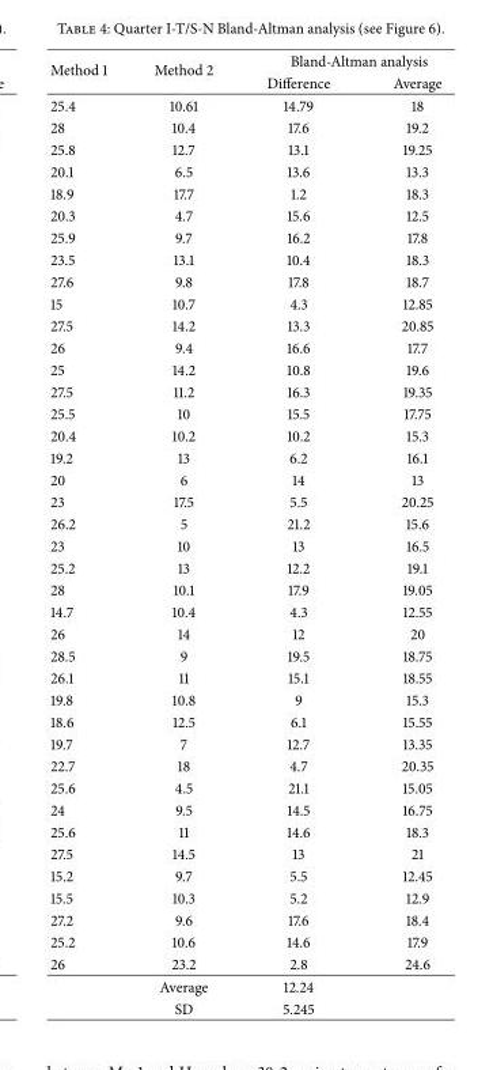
<table><thead><tr><td rowspan="2">Method 1</td><td rowspan="2">Method 2</td><td colspan="2">Bland-Altman analysis</td></tr><tr><td>Difference</td><td>Average</td></tr></thead><tbody><tr><td>25.4</td><td>10.61</td><td>14.79</td><td>18</td></tr><tr><td>28</td><td>10.4</td><td>17.6</td><td>19.2</td></tr><tr><td>25.8</td><td>12.7</td><td>13.1</td><td>19.25</td></tr><tr><td>20.1</td><td>6.5</td><td>13.6</td><td>13.3</td></tr><tr><td>18.9</td><td>17.7</td><td>1.2</td><td>18.3</td></tr><tr><td>20.3</td><td>4.7</td><td>15.6</td><td>12.5</td></tr><tr><td>25.9</td><td>9.7</td><td>16.2</td><td>17.8</td></tr><tr><td>23.5</td><td>13.1</td><td>10.4</td><td>18.3</td></tr><tr><td>27.6</td><td>9.8</td><td>17.8</td><td>18.7</td></tr><tr><td>15</td><td>10.7</td><td>4.3</td><td>12.85</td></tr><tr><td>27.5</td><td>14.2</td><td>13.3</td><td>20.85</td></tr><tr><td>26</td><td>9.4</td><td>16.6</td><td>17.7</td></tr><tr><td>25</td><td>14.2</td><td>10.8</td><td>19.6</td></tr><tr><td>27.5</td><td>11.2</td><td>16.3</td><td>19.35</td></tr><tr><td>25.5</td><td>10</td><td>15.5</td><td>17.75</td></tr><tr><td>20.4</td><td>10.2</td><td>10.2</td><td>15.3</td></tr><tr><td>19.2</td><td>13</td><td>6.2</td><td>16.1</td></tr><tr><td>20</td><td>6</td><td>14</td><td>13</td></tr><tr><td>23</td><td>17.5</td><td>5.5</td><td>20.25</td></tr><tr><td>26.2</td><td>5</td><td>21.2</td><td>15.6</td></tr><tr><td>23</td><td>10</td><td>13</td><td>16.5</td></tr><tr><td>25.2</td><td>13</td><td>12.2</td><td>19.1</td></tr><tr><td>28</td><td>10.1</td><td>17.9</td><td>19.05</td></tr><tr><td>14.7</td><td>10.4</td><td>4.3</td><td>12.55</td></tr><tr><td>26</td><td>14</td><td>12</td><td>20</td></tr><tr><td>28.5</td><td>9</td><td>19.5</td><td>18.75</td></tr><tr><td>26.1</td><td>11</td><td>15.1</td><td>18.55</td></tr><tr><td>19.8</td><td>10.8</td><td>9</td><td>15.3</td></tr><tr><td>18.6</td><td>12.5</td><td>6.1</td><td>15.55</td></tr><tr><td>19.7</td><td>7</td><td>12.7</td><td>13.35</td></tr><tr><td>22.7</td><td>18</td><td>4.7</td><td>20.35</td></tr><tr><td>25.6</td><td>4.5</td><td>21.1</td><td>15.05</td></tr><tr><td>24</td><td>9.5</td><td>14.5</td><td>16.75</td></tr><tr><td>25.6</td><td>11</td><td>14.6</td><td>18.3</td></tr><tr><td>27.5</td><td>14.5</td><td>13</td><td>21</td></tr><tr><td>15.2</td><td>9.7</td><td>5.5</td><td>12.45</td></tr><tr><td>15.5</td><td>10.3</td><td>5.2</td><td>12.9</td></tr><tr><td>27.2</td><td>9.6</td><td>17.6</td><td>18.4</td></tr><tr><td>25.2</td><td>10.6</td><td>14.6</td><td>17.9</td></tr><tr><td rowspan="3">26</td><td>23.2</td><td>2.8</td><td>24.6</td></tr><tr><td>Average</td><td>12.24</td><td></td></tr><tr><td>SD</td><td>5.245</td><td></td></tr></tbody></table>